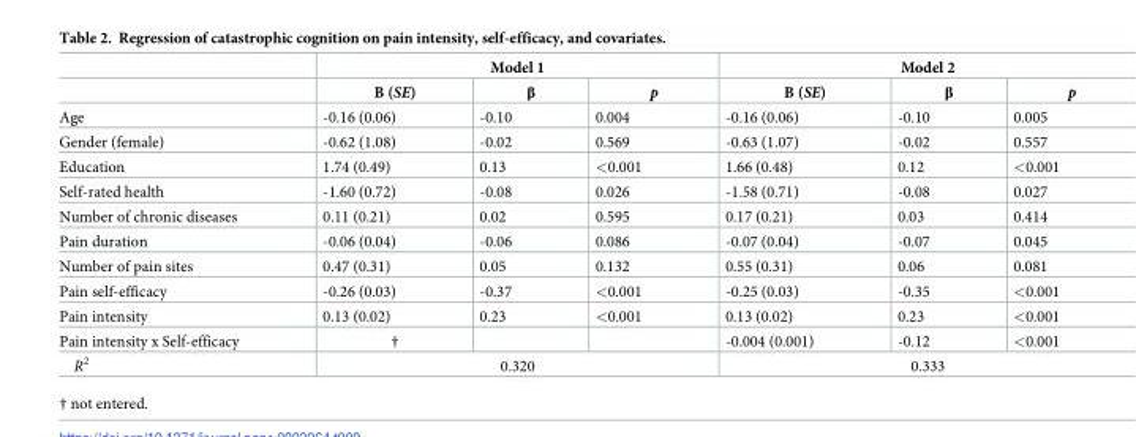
<table><thead><tr><td rowspan="2"></td><td colspan="3">Model 1</td><td colspan="3">Model 2</td></tr><tr><td>B (SE)</td><td>β</td><td>p</td><td>B (SE)</td><td>β</td><td>p</td></tr></thead><tbody><tr><td>Age</td><td>-0.16 (0.06)</td><td>-0.10</td><td>0.004</td><td>-0.16 (0.06)</td><td>-0.10</td><td>0.005</td></tr><tr><td>Gender (female)</td><td>-0.62 (1.08)</td><td>-0.02</td><td>0.569</td><td>-0.63 (1.07)</td><td>-0.02</td><td>0.557</td></tr><tr><td>Education</td><td>1.74 (0.49)</td><td>0.13</td><td>&lt;0.001</td><td>1.66 (0.48)</td><td>0.12</td><td>&lt;0.001</td></tr><tr><td>Self-rated health</td><td>-1.60 (0.72)</td><td>-0.08</td><td>0.026</td><td>-1.58 (0.71)</td><td>-0.08</td><td>0.027</td></tr><tr><td>Number of chronic diseases</td><td>0.11 (0.21)</td><td>0.02</td><td>0.595</td><td>0.17 (0.21)</td><td>0.03</td><td>0.414</td></tr><tr><td>Pain duration</td><td>-0.06 (0.04)</td><td>-0.06</td><td>0.086</td><td>-0.07 (0.04)</td><td>-0.07</td><td>0.045</td></tr><tr><td>Number of pain sites</td><td>0.47 (0.31)</td><td>0.05</td><td>0.132</td><td>0.55 (0.31)</td><td>0.06</td><td>0.081</td></tr><tr><td>Pain self-efficacy</td><td>-0.26 (0.03)</td><td>-0.37</td><td>&lt;0.001</td><td>-0.25 (0.03)</td><td>-0.35</td><td>&lt;0.001</td></tr><tr><td>Pain intensity</td><td>0.13 (0.02)</td><td>0.23</td><td>&lt;0.001</td><td>0.13 (0.02)</td><td>0.23</td><td>&lt;0.001</td></tr><tr><td>Pain intensity x Self-efficacy</td><td>†</td><td></td><td></td><td>-0.004 (0.001)</td><td>-0.12</td><td>&lt;0.001</td></tr><tr><td>R<sup>2</sup></td><td colspan="3">0.320</td><td colspan="3">0.333</td></tr></tbody></table>